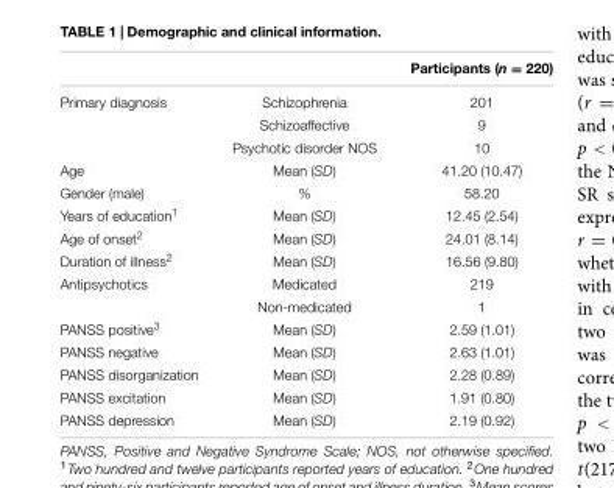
<table><thead><tr><td></td><td></td><td>Participants (n = 220)</td></tr></thead><tbody><tr><td rowspan="3">Primary diagnosis</td><td>Schizophrenia</td><td>201</td></tr><tr><td>Schizoaffective</td><td>9</td></tr><tr><td>Psychotic disorder NOS</td><td>10</td></tr><tr><td>Age</td><td>Mean (SD)</td><td>41.20 (10.47)</td></tr><tr><td>Gender (male)</td><td>%</td><td>58.20</td></tr><tr><td>Years of education<sup>1</sup></td><td>Mean (SD)</td><td>12.45 (2.54)</td></tr><tr><td>Age of onset<sup>2</sup></td><td>Mean (SD)</td><td>24.01 (8.14)</td></tr><tr><td>Duration of illness<sup>2</sup></td><td>Mean (SD)</td><td>16.56 (9.80)</td></tr><tr><td rowspan="2">Antipsychotics</td><td>Medicated</td><td>219</td></tr><tr><td>Non-medicated</td><td>1</td></tr><tr><td>PANSS positive<sup>3</sup></td><td>Mean (SD)</td><td>2.59 (1.01)</td></tr><tr><td>PANSS negative</td><td>Mean (SD)</td><td>2.63 (1.01)</td></tr><tr><td>PANSS disorganization</td><td>Mean (SD)</td><td>2.28 (0.89)</td></tr><tr><td>PANSS excitation</td><td>Mean (SD)</td><td>1.91 (0.80)</td></tr><tr><td>PANSS depression</td><td>Mean (SD)</td><td>2.19 (0.92)</td></tr></tbody></table>